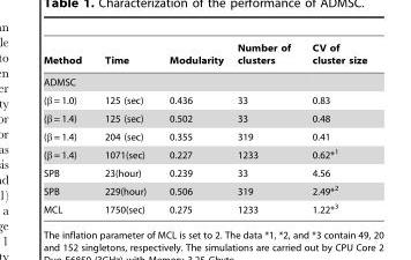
<table><thead><tr><td>Method</td><td>Time</td><td>Modularity</td><td>Number of clusters</td><td>CV of cluster size</td></tr></thead><tbody><tr><td colspan="5">ADMSC</td></tr><tr><td>(β = 1.0)</td><td>125 (sec)</td><td>0.436</td><td>33</td><td>0.83</td></tr><tr><td>(β = 1.4)</td><td>125 (sec)</td><td>0.502</td><td>33</td><td>0.48</td></tr><tr><td>(β = 1.4)</td><td>204 (sec)</td><td>0.355</td><td>319</td><td>0.41</td></tr><tr><td>(β = 1.4)</td><td>1071(sec)</td><td>0.227</td><td>1233</td><td>0.62*<sup>1</sup></td></tr><tr><td>SPB</td><td>23(hour)</td><td>0.239</td><td>33</td><td>4.56</td></tr><tr><td>SPB</td><td>229(hour)</td><td>0.506</td><td>319</td><td>2.49*<sup>2</sup></td></tr><tr><td>MCL</td><td>1750(sec)</td><td>0.275</td><td>1233</td><td>1.22*<sup>3</sup></td></tr></tbody></table>